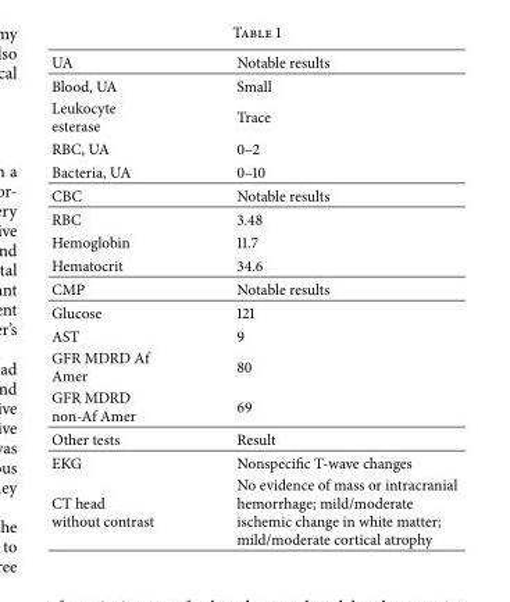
<table><thead><tr><td>UA</td><td>Notable results</td></tr></thead><tbody><tr><td>Blood, UA</td><td>Small</td></tr><tr><td>Leukocyte esterase</td><td>Trace</td></tr><tr><td>RBC, UA</td><td>0–2</td></tr><tr><td>Bacteria, UA</td><td>0–10</td></tr><tr><td>CBC</td><td>Notable results</td></tr><tr><td>RBC</td><td>3.48</td></tr><tr><td>Hemoglobin</td><td>11.7</td></tr><tr><td>Hematocrit</td><td>34.6</td></tr><tr><td>CMP</td><td>Notable results</td></tr><tr><td>Glucose</td><td>121</td></tr><tr><td>AST</td><td>9</td></tr><tr><td>GFR MDRD Af Amer</td><td>80</td></tr><tr><td>GFR MDRD non-Af Amer</td><td>69</td></tr><tr><td>Other tests</td><td>Result</td></tr><tr><td>EKG</td><td>Nonspecific T-wave changes</td></tr><tr><td>CT head without contrast</td><td>No evidence of mass or intracranial hemorrhage; mild/moderate ischemic change in white matter; mild/moderate cortical atrophy</td></tr></tbody></table>